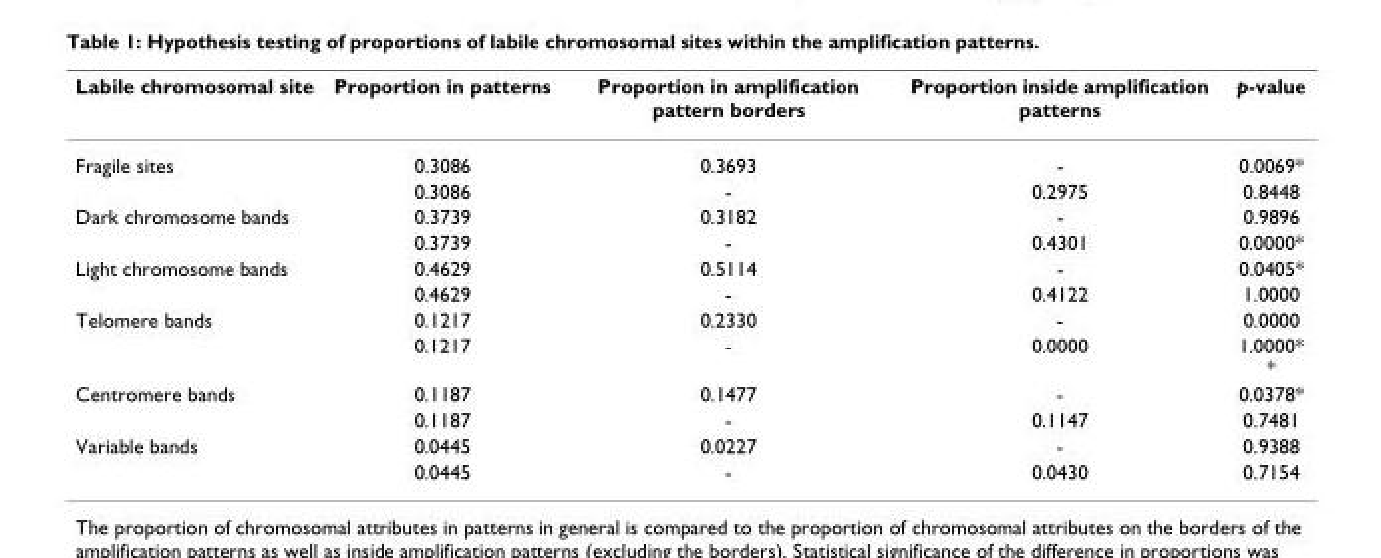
<table><thead><tr><td>Labile chromosomal site</td><td>Proportion in patterns</td><td>Proportion in amplification pattern borders</td><td>Proportion inside amplification patterns</td><td>p-value</td></tr></thead><tbody><tr><td rowspan="2">Fragile sites</td><td>0.3086</td><td>0.3693</td><td>-</td><td>0.0069*</td></tr><tr><td>0.3086</td><td>-</td><td>0.2975</td><td>0.8448</td></tr><tr><td rowspan="2">Dark chromosome bands</td><td>0.3739</td><td>0.3182</td><td>-</td><td>0.9896</td></tr><tr><td>0.3739</td><td>-</td><td>0.4301</td><td>0.0000*</td></tr><tr><td rowspan="2">Light chromosome bands</td><td>0.4629</td><td>0.5114</td><td>-</td><td>0.0405*</td></tr><tr><td>0.4629</td><td>-</td><td>0.4122</td><td>1.0000</td></tr><tr><td rowspan="2">Telomere bands</td><td>0.1217</td><td>0.2330</td><td>-</td><td>0.0000</td></tr><tr><td>0.1217</td><td>-</td><td>0.0000</td><td>1.0000* *</td></tr><tr><td rowspan="2">Centromere bands</td><td>0.1187</td><td>0.1477</td><td>-</td><td>0.0378*</td></tr><tr><td>0.1187</td><td>-</td><td>0.1147</td><td>0.7481</td></tr><tr><td rowspan="2">Variable bands</td><td>0.0445</td><td>0.0227</td><td>-</td><td>0.9388</td></tr><tr><td>0.0445</td><td>-</td><td>0.0430</td><td>0.7154</td></tr></tbody></table>